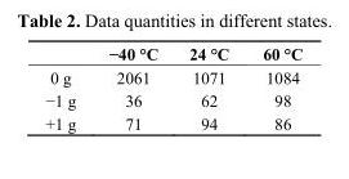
<table><thead><tr><td></td><td>−40 °C</td><td>24 °C</td><td>60 °C</td></tr></thead><tbody><tr><td>0 g</td><td>2061</td><td>1071</td><td>1084</td></tr><tr><td>−1 g</td><td>36</td><td>62</td><td>98</td></tr><tr><td>+1 g</td><td>71</td><td>94</td><td>86</td></tr></tbody></table>